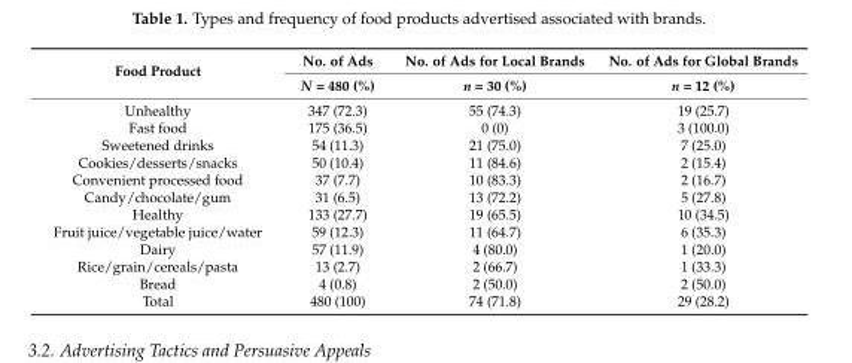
<table><thead><tr><td rowspan="2">Food Product</td><td rowspan="2">No. of Ads N = 480 (%)</td><td rowspan="2">No. of Ads for Local Brands n = 30 (%)</td><td rowspan="2">No. of Ads for Global Brands n = 12 (%)</td></tr><tr></tr></thead><tbody><tr><td>Unhealthy</td><td>347 (72.3)</td><td>55 (74.3)</td><td>19 (25.7)</td></tr><tr><td>Fast food</td><td>175 (36.5)</td><td>0 (0)</td><td>3 (100.0)</td></tr><tr><td>Sweetened drinks</td><td>54 (11.3)</td><td>21 (75.0)</td><td>7 (25.0)</td></tr><tr><td>Cookies/desserts/snacks</td><td>50 (10.4)</td><td>11 (84.6)</td><td>2 (15.4)</td></tr><tr><td>Convenient processed food</td><td>37 (7.7)</td><td>10 (83.3)</td><td>2 (16.7)</td></tr><tr><td>Candy/chocolate/gum</td><td>31 (6.5)</td><td>13 (72.2)</td><td>5 (27.8)</td></tr><tr><td>Healthy</td><td>133 (27.7)</td><td>19 (65.5)</td><td>10 (34.5)</td></tr><tr><td>Fruit juice/vegetable juice/water</td><td>59 (12.3)</td><td>11 (64.7)</td><td>6 (35.3)</td></tr><tr><td>Dairy</td><td>57 (11.9)</td><td>4 (80.0)</td><td>1 (20.0)</td></tr><tr><td>Rice/grain/cereals/pasta</td><td>13 (2.7)</td><td>2 (66.7)</td><td>1 (33.3)</td></tr><tr><td>Bread</td><td>4 (0.8)</td><td>2 (50.0)</td><td>2 (50.0)</td></tr><tr><td>Total</td><td>480 (100)</td><td>74 (71.8)</td><td>29 (28.2)</td></tr></tbody></table>